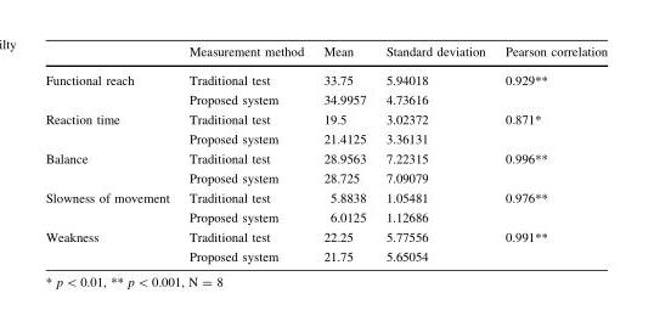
<table><thead><tr><td></td><td>Measurement method</td><td>Mean</td><td>Standard deviation</td><td>Pearson correlation</td></tr></thead><tbody><tr><td rowspan="2">Functional reach</td><td>Traditional test</td><td>33.75</td><td>5.94018</td><td rowspan="2">0.929**</td></tr><tr><td>Proposed system</td><td>34.9957</td><td>4.73616</td></tr><tr><td rowspan="2">Reaction time</td><td>Traditional test</td><td>19.5</td><td>3.02372</td><td rowspan="2">0.871*</td></tr><tr><td>Proposed system</td><td>21.4125</td><td>3.36131</td></tr><tr><td rowspan="2">Balance</td><td>Traditional test</td><td>28.9563</td><td>7.22315</td><td rowspan="2">0.996**</td></tr><tr><td>Proposed system</td><td>28.725</td><td>7.09079</td></tr><tr><td rowspan="2">Slowness of movement</td><td>Traditional test</td><td>5.8838</td><td>1.05481</td><td rowspan="2">0.976**</td></tr><tr><td>Proposed system</td><td>6.0125</td><td>1.12686</td></tr><tr><td rowspan="2">Weakness</td><td>Traditional test</td><td>22.25</td><td>5.77556</td><td rowspan="2">0.991**</td></tr><tr><td>Proposed system</td><td>21.75</td><td>5.65054</td></tr></tbody></table>